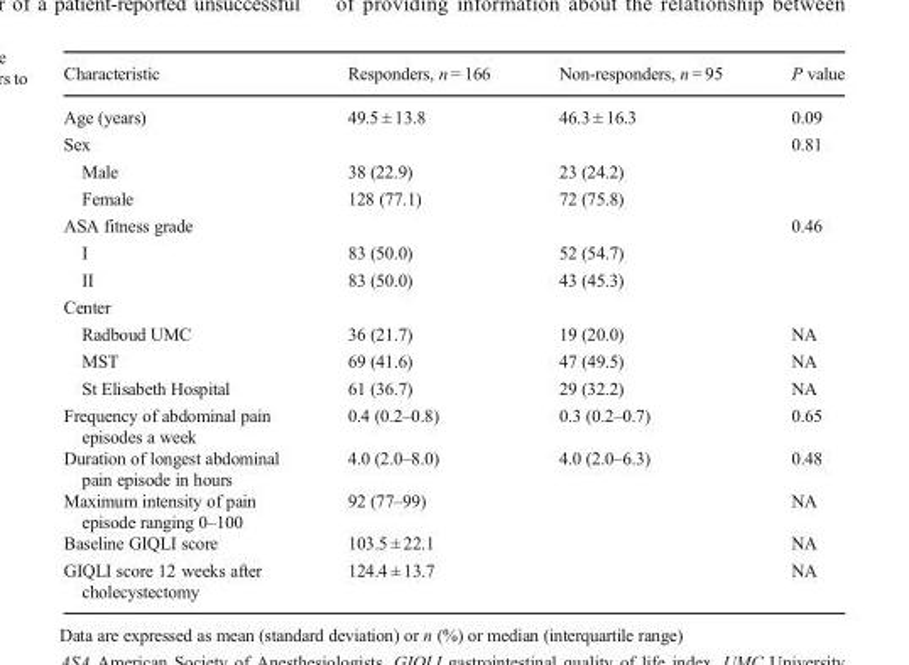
<table><thead><tr><td>Characteristic</td><td>Responders, n = 166</td><td>Non-responders, n = 95</td><td>P value</td></tr></thead><tbody><tr><td>Age (years)</td><td>49.5 ± 13.8</td><td>46.3 ± 16.3</td><td>0.09</td></tr><tr><td colspan="3">Sex</td><td>0.81</td></tr><tr><td>Male</td><td>38 (22.9)</td><td>23 (24.2)</td><td></td></tr><tr><td>Female</td><td>128 (77.1)</td><td>72 (75.8)</td><td></td></tr><tr><td colspan="3">ASA fitness grade</td><td>0.46</td></tr><tr><td>I</td><td>83 (50.0)</td><td>52 (54.7)</td><td></td></tr><tr><td>II</td><td>83 (50.0)</td><td>43 (45.3)</td><td></td></tr><tr><td colspan="4">Center</td></tr><tr><td>Radboud UMC</td><td>36 (21.7)</td><td>19 (20.0)</td><td>NA</td></tr><tr><td>MST</td><td>69 (41.6)</td><td>47 (49.5)</td><td>NA</td></tr><tr><td>St Elisabeth Hospital</td><td>61 (36.7)</td><td>29 (32.2)</td><td>NA</td></tr><tr><td>Frequency of abdominal pain episodes a week</td><td>0.4 (0.2–0.8)</td><td>0.3 (0.2–0.7)</td><td>0.65</td></tr><tr><td>Duration of longest abdominal pain episode in hours</td><td>4.0 (2.0–8.0)</td><td>4.0 (2.0–6.3)</td><td>0.48</td></tr><tr><td>Maximum intensity of pain episode ranging 0–100</td><td>92 (77–99)</td><td></td><td>NA</td></tr><tr><td>Baseline GIQLI score</td><td>103.5 ± 22.1</td><td></td><td>NA</td></tr><tr><td>GIQLI score 12 weeks after cholecystectomy</td><td>124.4 ± 13.7</td><td></td><td>NA</td></tr></tbody></table>